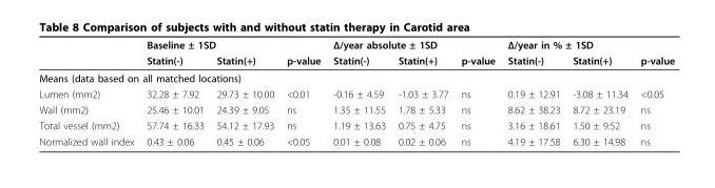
<table><thead><tr><td rowspan="2"></td><td colspan="2">Baseline ± 1SD</td><td rowspan="2">p-value</td><td colspan="2">Δ/year absolute ± 1SD</td><td rowspan="2">p-value</td><td colspan="2">Δ/year in % ± 1SD</td><td rowspan="2">p-value</td></tr><tr><td>Statin(-)</td><td>Statin(+)</td><td>Statin(-)</td><td>Statin(+)</td><td>Statin(-)</td><td>Statin(+)</td></tr></thead><tbody><tr><td colspan="10">Means (data based on all matched locations)</td></tr><tr><td>Lumen (mm2)</td><td>32.28 ± 7.92</td><td>29.73 ± 10.00</td><td>&lt;0.01</td><td>-0.16 ± 4.59</td><td>-1.03 ± 3.77</td><td>ns</td><td>0.19 ± 12.91</td><td>-3.08 ± 11.34</td><td>&lt;0.05</td></tr><tr><td>Wall (mm2)</td><td>25.46 ± 10.01</td><td>24.39 ± 9.05</td><td>ns</td><td>1.35 ± 11.55</td><td>1.78 ± 5.33</td><td>ns</td><td>8.62 ± 38.23</td><td>8.72 ± 23.19</td><td>ns</td></tr><tr><td>Total vessel (mm2)</td><td>57.74 ± 16.33</td><td>54.12 ± 17.93</td><td>ns</td><td>1.19 ± 13.63</td><td>0.75 ± 4.75</td><td>ns</td><td>3.16 ± 18.61</td><td>1.50 ± 9.52</td><td>ns</td></tr><tr><td>Normalized wall index</td><td>0.43 ± 0.06</td><td>0.45 ± 0.06</td><td>&lt;0.05</td><td>0.01 ± 0.08</td><td>0.02 ± 0.06</td><td>ns</td><td>4.19 ± 17.58</td><td>6.30 ± 14.98</td><td>ns</td></tr></tbody></table>